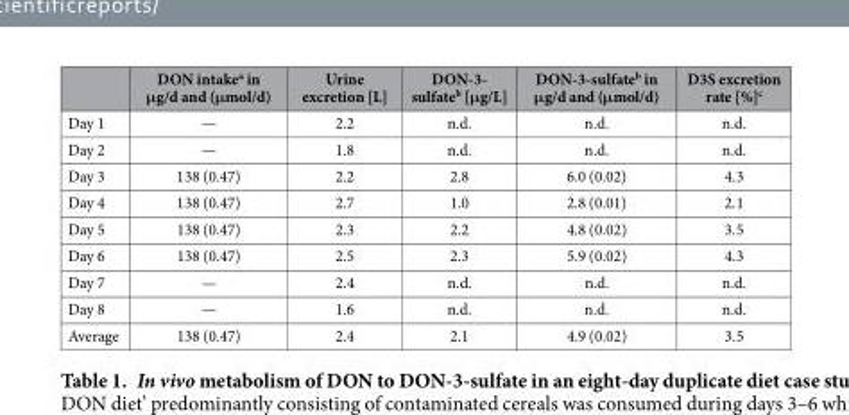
<table><thead><tr><td></td><td>DON intake<sup>a</sup> in μg/d and (μmol/d)</td><td>Urine excretion [L]</td><td>DON-3- sulfate<sup>b</sup> [μg/L]</td><td>DON-3-sulfate<sup>b</sup> in μg/d and (μmol/d)</td><td>D3S excretion rate [%]<sup>c</sup></td></tr></thead><tbody><tr><td>Day 1</td><td>—</td><td>2.2</td><td>n.d.</td><td>n.d.</td><td>n.d.</td></tr><tr><td>Day 2</td><td>—</td><td>1.8</td><td>n.d.</td><td>n.d.</td><td>n.d.</td></tr><tr><td>Day 3</td><td>138 (0.47)</td><td>2.2</td><td>2.8</td><td>6.0 (0.02)</td><td>4.3</td></tr><tr><td>Day 4</td><td>138 (0.47)</td><td>2.7</td><td>1.0</td><td>2.8 (0.01)</td><td>2.1</td></tr><tr><td>Day 5</td><td>138 (0.47)</td><td>2.3</td><td>2.2</td><td>4.8 (0.02)</td><td>3.5</td></tr><tr><td>Day 6</td><td>138 (0.47)</td><td>2.5</td><td>2.3</td><td>5.9 (0.02)</td><td>4.3</td></tr><tr><td>Day 7</td><td>—</td><td>2.4</td><td>n.d.</td><td>n.d.</td><td>n.d.</td></tr><tr><td>Day 8</td><td>—</td><td>1.6</td><td>n.d.</td><td>n.d.</td><td>n.d.</td></tr><tr><td>Average</td><td>138 (0.47)</td><td>2.4</td><td>2.1</td><td>4.9 (0.02)</td><td>3.5</td></tr></tbody></table>